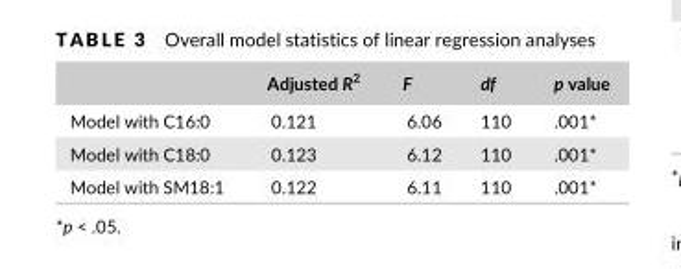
<table><thead><tr><td></td><td>Adjusted R<sup>2</sup></td><td>F</td><td>df</td><td>p value</td></tr></thead><tbody><tr><td>Model with C16:0</td><td>0.121</td><td>6.06</td><td>110</td><td>.001*</td></tr><tr><td>Model with C18:0</td><td>0.123</td><td>6.12</td><td>110</td><td>.001*</td></tr><tr><td>Model with SM18:1</td><td>0.122</td><td>6.11</td><td>110</td><td>.001*</td></tr></tbody></table>